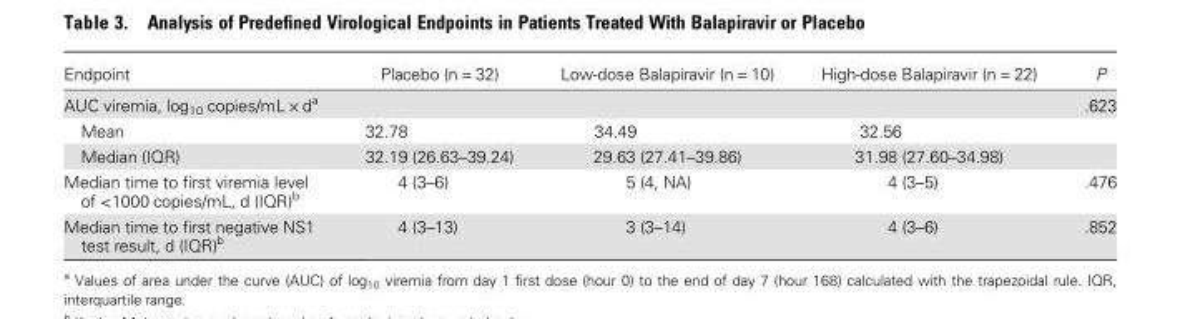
<table><thead><tr><td>Endpoint</td><td>Placebo (n = 32)</td><td>Low-dose Balapiravir (n = 10)</td><td>High-dose Balapiravir (n = 22)</td><td>P</td></tr></thead><tbody><tr><td>AUC viremia, log<sub>10</sub> copies/mL × d<sup>a</sup></td><td></td><td></td><td></td><td>.623</td></tr><tr><td>Mean</td><td>32.78</td><td>34.49</td><td>32.56</td><td></td></tr><tr><td>Median (IQR)</td><td>32.19 (26.63–39.24)</td><td>29.63 (27.41–39.86)</td><td>31.98 (27.60–34.98)</td><td></td></tr><tr><td>Median time to first viremia level of &lt;1000 copies/mL, d (IQR)<sup>b</sup></td><td>4 (3–6)</td><td>5 (4, NA)</td><td>4 (3–5)</td><td>.476</td></tr><tr><td>Median time to first negative NS1 test result, d (IQR)<sup>b</sup></td><td>4 (3–13)</td><td>3 (3–14)</td><td>4 (3–6)</td><td>.852</td></tr></tbody></table>